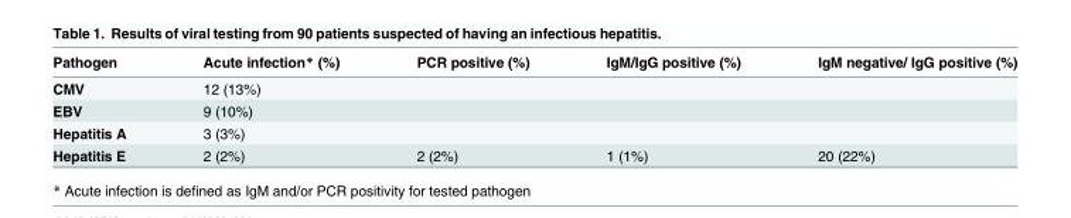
<table><thead><tr><td>Pathogen</td><td>Acute infection* (%)</td><td>PCR positive (%)</td><td>IgM/IgG positive (%)</td><td>IgM negative/ IgG positive (%)</td></tr></thead><tbody><tr><td>CMV</td><td>12 (13%)</td><td></td><td></td><td></td></tr><tr><td>EBV</td><td>9 (10%)</td><td></td><td></td><td></td></tr><tr><td>Hepatitis A</td><td>3 (3%)</td><td></td><td></td><td></td></tr><tr><td>Hepatitis E</td><td>2 (2%)</td><td>2 (2%)</td><td>1 (1%)</td><td>20 (22%)</td></tr></tbody></table>